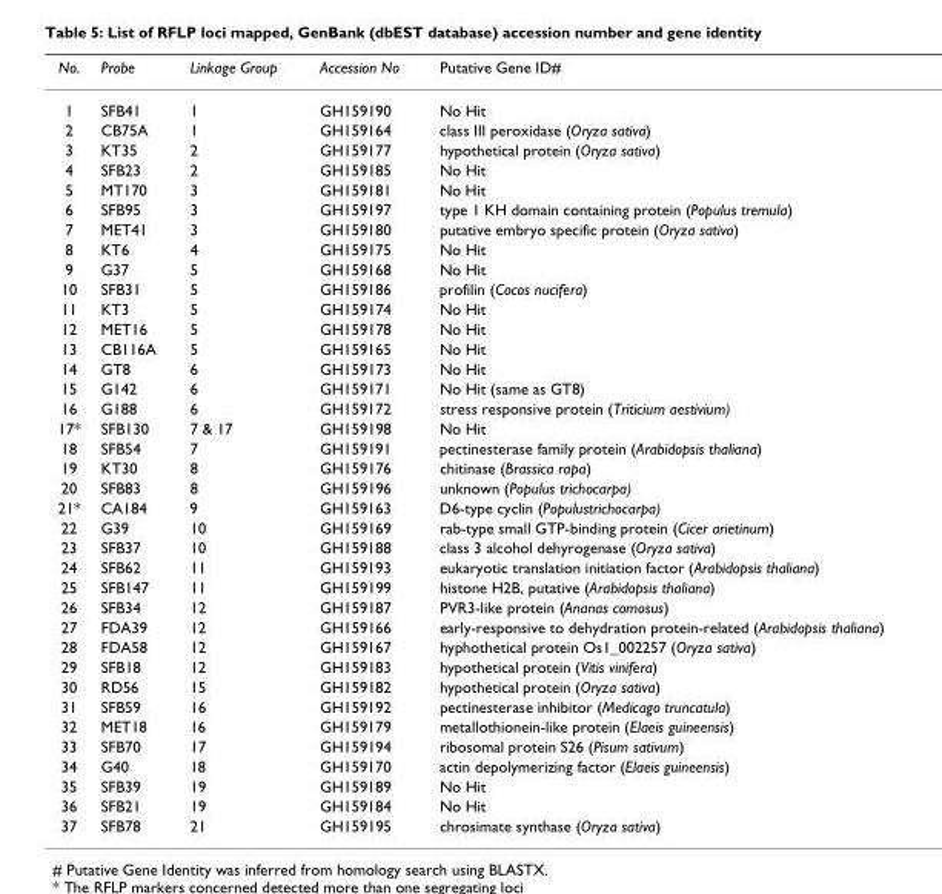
<table><thead><tr><td>No.</td><td>Probe</td><td>Linkage Group</td><td>Accession No</td><td>Putative Gene ID#</td></tr></thead><tbody><tr><td>1</td><td>SFB41</td><td>1</td><td>GH159190</td><td>No Hit</td></tr><tr><td>2</td><td>CB75A</td><td>1</td><td>GH159164</td><td>class III peroxidase (Oryza sativa)</td></tr><tr><td>3</td><td>KT35</td><td>2</td><td>GH159177</td><td>hypothetical protein (Oryza sativa)</td></tr><tr><td>4</td><td>SFB23</td><td>2</td><td>GH159185</td><td>No Hit</td></tr><tr><td>5</td><td>MT170</td><td>3</td><td>GH159181</td><td>No Hit</td></tr><tr><td>6</td><td>SFB95</td><td>3</td><td>GH159197</td><td>type 1 KH domain containing protein (Populus tremula)</td></tr><tr><td>7</td><td>MET41</td><td>3</td><td>GH159180</td><td>putative embryo specific protein (Oryza sativa)</td></tr><tr><td>8</td><td>KT6</td><td>4</td><td>GH159175</td><td>No Hit</td></tr><tr><td>9</td><td>G37</td><td>5</td><td>GH159168</td><td>No Hit</td></tr><tr><td>10</td><td>SFB31</td><td>5</td><td>GH159186</td><td>profilin (Cocos nucifera)</td></tr><tr><td>11</td><td>KT3</td><td>5</td><td>GH159174</td><td>No Hit</td></tr><tr><td>12</td><td>MET16</td><td>5</td><td>GH159178</td><td>No Hit</td></tr><tr><td>13</td><td>CB116A</td><td>5</td><td>GH159165</td><td>No Hit</td></tr><tr><td>14</td><td>GT8</td><td>6</td><td>GH159173</td><td>No Hit</td></tr><tr><td>15</td><td>G142</td><td>6</td><td>GH159171</td><td>No Hit (same as GT8)</td></tr><tr><td>16</td><td>G188</td><td>6</td><td>GH159172</td><td>stress responsive protein (Triticium aestivium)</td></tr><tr><td>17*</td><td>SFB130</td><td>7 &amp; 17</td><td>GH159198</td><td>No Hit</td></tr><tr><td>18</td><td>SFB54</td><td>7</td><td>GH159191</td><td>pectinesterase family protein (Arabidopsis thaliana)</td></tr><tr><td>19</td><td>KT30</td><td>8</td><td>GH159176</td><td>chitinase (Brassica rapa)</td></tr><tr><td>20</td><td>SFB83</td><td>8</td><td>GH159196</td><td>unknown (Populus trichocarpa)</td></tr><tr><td>21*</td><td>CA184</td><td>9</td><td>GH159163</td><td>D6-type cyclin (Populustrichocarpa)</td></tr><tr><td>22</td><td>G39</td><td>10</td><td>GH159169</td><td>rab-type small GTP-binding protein (Cicer arietinum)</td></tr><tr><td>23</td><td>SFB37</td><td>10</td><td>GH159188</td><td>class 3 alcohol dehyrogenase (Oryza sativa)</td></tr><tr><td>24</td><td>SFB62</td><td>11</td><td>GH159193</td><td>eukaryotic translation initiation factor (Arabidopsis thaliana)</td></tr><tr><td>25</td><td>SFB147</td><td>11</td><td>GH159199</td><td>histone H2B, putative (Arabidopsis thaliana)</td></tr><tr><td>26</td><td>SFB34</td><td>12</td><td>GH159187</td><td>PVR3-like protein (Ananas comosus)</td></tr><tr><td>27</td><td>FDA39</td><td>12</td><td>GH159166</td><td>early-responsive to dehydration protein-related (Arabidopsis thaliana)</td></tr><tr><td>28</td><td>FDA58</td><td>12</td><td>GH159167</td><td>hyphothetical protein Os1_002257 (Oryza sativa)</td></tr><tr><td>29</td><td>SFB18</td><td>12</td><td>GH159183</td><td>hypothetical protein (Vitis vinifera)</td></tr><tr><td>30</td><td>RD56</td><td>15</td><td>GH159182</td><td>hypothetical protein (Oryza sativa)</td></tr><tr><td>31</td><td>SFB59</td><td>16</td><td>GH159192</td><td>pectinesterase inhibitor (Medicago truncatula)</td></tr><tr><td>32</td><td>MET18</td><td>16</td><td>GH159179</td><td>metallothionein-like protein (Elaeis guineensis)</td></tr><tr><td>33</td><td>SFB70</td><td>17</td><td>GH159194</td><td>ribosomal protein S26 (Pisum sativum)</td></tr><tr><td>34</td><td>G40</td><td>18</td><td>GH159170</td><td>actin depolymerizing factor (Elaeis guineensis)</td></tr><tr><td>35</td><td>SFB39</td><td>19</td><td>GH159189</td><td>No Hit</td></tr><tr><td>36</td><td>SFB21</td><td>19</td><td>GH159184</td><td>No Hit</td></tr><tr><td>37</td><td>SFB78</td><td>21</td><td>GH159195</td><td>chrosimate synthase (Oryza sativa)</td></tr></tbody></table>